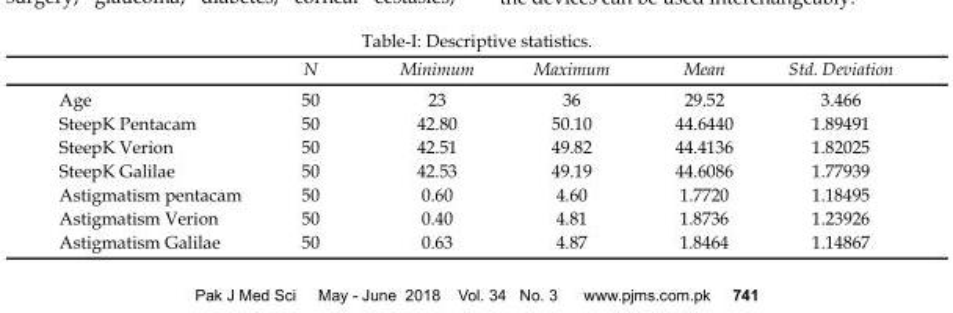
<table><thead><tr><td></td><td>N</td><td>Minimum</td><td>Maximum</td><td>Mean</td><td>Std. Deviation</td></tr></thead><tbody><tr><td>Age</td><td>50</td><td>23</td><td>36</td><td>29.52</td><td>3.466</td></tr><tr><td>SteepK Pentacam</td><td>50</td><td>42.80</td><td>50.10</td><td>44.6440</td><td>1.89491</td></tr><tr><td>SteepK Verion</td><td>50</td><td>42.51</td><td>49.82</td><td>44.4136</td><td>1.82025</td></tr><tr><td>SteepK Galilae</td><td>50</td><td>42.53</td><td>49.19</td><td>44.6086</td><td>1.77939</td></tr><tr><td>Astigmatism pentacam</td><td>50</td><td>0.60</td><td>4.60</td><td>1.7720</td><td>1.18495</td></tr><tr><td>Astigmatism Verion</td><td>50</td><td>0.40</td><td>4.81</td><td>1.8736</td><td>1.23926</td></tr><tr><td>Astigmatism Galilae</td><td>50</td><td>0.63</td><td>4.87</td><td>1.8464</td><td>1.14867</td></tr></tbody></table>